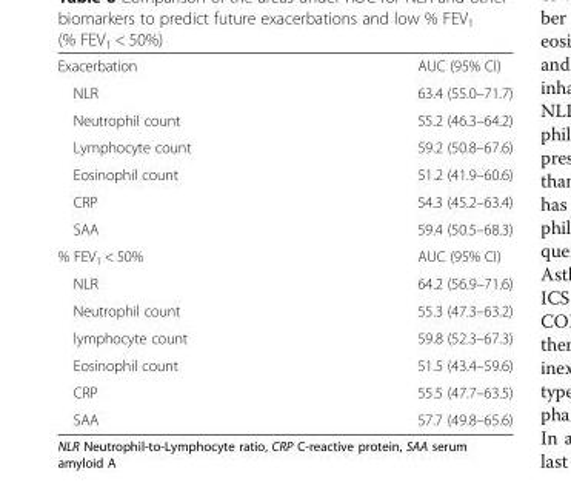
<table><tbody><tr><td>Exacerbation</td><td>AUC (95% CI)</td></tr><tr><td>NLR</td><td>63.4 (55.0–71.7)</td></tr><tr><td>Neutrophil count</td><td>55.2 (46.3–64.2)</td></tr><tr><td>Lymphocyte count</td><td>59.2 (50.8–67.6)</td></tr><tr><td>Eosinophil count</td><td>51.2 (41.9–60.6)</td></tr><tr><td>CRP</td><td>54.3 (45.2–63.4)</td></tr><tr><td>SAA</td><td>59.4 (50.5–68.3)</td></tr><tr><td>% FEV<sub>1</sub> &lt; 50%</td><td>AUC (95% CI)</td></tr><tr><td>NLR</td><td>64.2 (56.9–71.6)</td></tr><tr><td>Neutrophil count</td><td>55.3 (47.3–63.2)</td></tr><tr><td>lymphocyte count</td><td>59.8 (52.3–67.3)</td></tr><tr><td>Eosinophil count</td><td>51.5 (43.4–59.6)</td></tr><tr><td>CRP</td><td>55.5 (47.7–63.5)</td></tr><tr><td>SAA</td><td>57.7 (49.8–65.6)</td></tr></tbody></table>